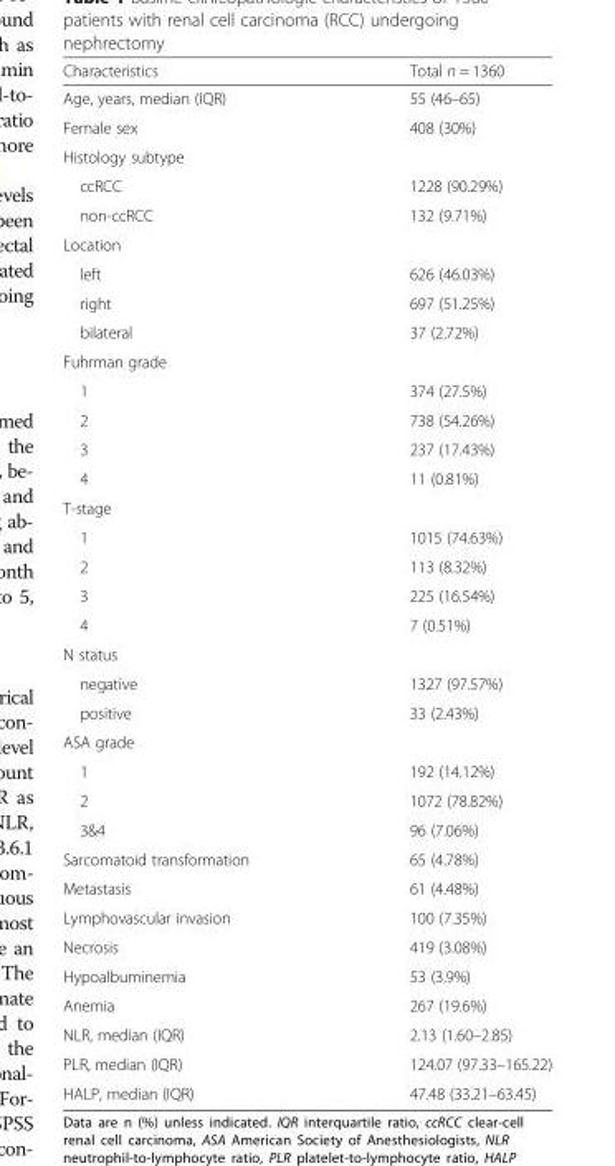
<table><thead><tr><td>Characteristics</td><td>Total n = 1360</td></tr></thead><tbody><tr><td>Age, years, median (IQR)</td><td>55 (46–65)</td></tr><tr><td>Female sex</td><td>408 (30%)</td></tr><tr><td colspan="2">Histology subtype</td></tr><tr><td>ccRCC</td><td>1228 (90.29%)</td></tr><tr><td>non-ccRCC</td><td>132 (9.71%)</td></tr><tr><td colspan="2">Location</td></tr><tr><td>left</td><td>626 (46.03%)</td></tr><tr><td>right</td><td>697 (51.25%)</td></tr><tr><td>bilateral</td><td>37 (2.72%)</td></tr><tr><td colspan="2">Fuhrman grade</td></tr><tr><td>1</td><td>374 (27.5%)</td></tr><tr><td>2</td><td>738 (54.26%)</td></tr><tr><td>3</td><td>237 (17.43%)</td></tr><tr><td>4</td><td>11 (0.81%)</td></tr><tr><td colspan="2">T-stage</td></tr><tr><td>1</td><td>1015 (74.63%)</td></tr><tr><td>2</td><td>113 (8.32%)</td></tr><tr><td>3</td><td>225 (16.54%)</td></tr><tr><td>4</td><td>7 (0.51%)</td></tr><tr><td colspan="2">N status</td></tr><tr><td>negative</td><td>1327 (97.57%)</td></tr><tr><td>positive</td><td>33 (2.43%)</td></tr><tr><td colspan="2">ASA grade</td></tr><tr><td>1</td><td>192 (14.12%)</td></tr><tr><td>2</td><td>1072 (78.82%)</td></tr><tr><td>3&amp;4</td><td>96 (7.06%)</td></tr><tr><td>Sarcomatoid transformation</td><td>65 (4.78%)</td></tr><tr><td>Metastasis</td><td>61 (4.48%)</td></tr><tr><td>Lymphovascular invasion</td><td>100 (7.35%)</td></tr><tr><td>Necrosis</td><td>419 (3.08%)</td></tr><tr><td>Hypoalbuminemia</td><td>53 (3.9%)</td></tr><tr><td>Anemia</td><td>267 (19.6%)</td></tr><tr><td>NLR, median (IQR)</td><td>2.13 (1.60–2.85)</td></tr><tr><td>PLR, median (IQR)</td><td>124.07 (97.33–165.22)</td></tr><tr><td>HALP, median (IQR)</td><td>47.48 (33.21–63.45)</td></tr></tbody></table>